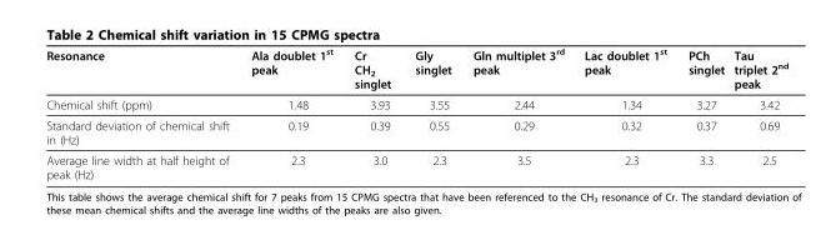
<table><thead><tr><td>Resonance</td><td>Ala doublet 1<sup>st</sup> peak</td><td>Cr CH<sub>2</sub> singlet</td><td>Gly singlet</td><td>Gln multiplet 3<sup>rd</sup> peak</td><td>Lac doublet 1<sup>st</sup> peak</td><td>PCh singlet</td><td>Tau triplet 2<sup>nd</sup> peak</td></tr></thead><tbody><tr><td>Chemical shift (ppm)</td><td>1.48</td><td>3.93</td><td>3.55</td><td>2.44</td><td>1.34</td><td>3.27</td><td>3.42</td></tr><tr><td>Standard deviation of chemical shift in (Hz)</td><td>0.19</td><td>0.39</td><td>0.55</td><td>0.29</td><td>0.32</td><td>0.37</td><td>0.69</td></tr><tr><td>Average line width at half height of peak (Hz)</td><td>2.3</td><td>3.0</td><td>2.3</td><td>3.5</td><td>2.3</td><td>3.3</td><td>2.5</td></tr></tbody></table>